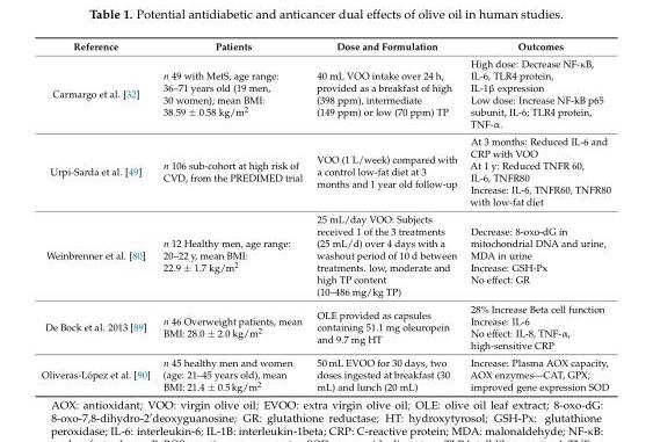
<table><thead><tr><td>Reference</td><td>Patients</td><td>Dose and Formulation</td><td>Outcomes</td></tr></thead><tbody><tr><td>Carmargo et al. [32]</td><td>n 49 with MetS, age range: 36–71 years old (19 men, 30 women); mean BMI: 38.59 ± 0.58 kg/m<sup>2</sup></td><td>40 mL VOO intake over 24 h, provided as a breakfast of high (398 ppm), intermediate (149 ppm) or low (70 ppm) TP</td><td>High dose: Decrease NF-κB, IL-6, TLR4 protein, IL-1β expression Low dose: Increase NF-kB p65 subunit, IL-6; TLR4 protein, TNF-α.</td></tr><tr><td>Urpi-Sarda et al. [49]</td><td>n 106 sub-cohort at high risk of CVD, from the PREDIMED trial</td><td>VOO (1 L/week) compared with a control low-fat diet at 3 months and 1 year old follow-up</td><td>At 3 months: Reduced IL-6 and CRP with VOO At 1 y: Reduced TNFR 60, IL-6, TNFR80 Increase: IL-6, TNFR60, TNFR80 with low-fat diet</td></tr><tr><td>Weinbrenner et al. [80]</td><td>n 12 Healthy men, age range: 20–22 y, mean BMI: 22.9 ± 1.7 kg/m<sup>2</sup></td><td>25 mL/day VOO: Subjects received 1 of the 3 treatments (25 mL/d) over 4 days with a washout period of 10 d between treatments. low, moderate and high TP content (10–486 mg/kg TP)</td><td>Decrease: 8-oxo-dG in mitochondrial DNA and urine, MDA in urine Increase: GSH-Px No effect: GR</td></tr><tr><td>De Bock et al. 2013 [89]</td><td>n 46 Overweight patients, mean BMI: 28.0 ± 2.0 kg/m<sup>2</sup></td><td>OLE provided as capsules containing 51.1 mg oleuropein and 9.7 mg HT</td><td>28% Increase Beta cell function Increase: IL-6 No effect: IL-8, TNF-α, high-sensitive CRP</td></tr><tr><td>Oliveras-López et al. [90]</td><td>n 45 healthy men and women (age: 21–45 years old), mean BMI: 21.4 ± 0.5 kg/m<sup>2</sup></td><td>50 mL EVOO for 30 days, two doses ingested at breakfast (30 mL) and lunch (20 mL)</td><td>Increase: Plasma AOX capacity, AOX enzymes—CAT, GPX; improved gene expression SOD</td></tr></tbody></table>